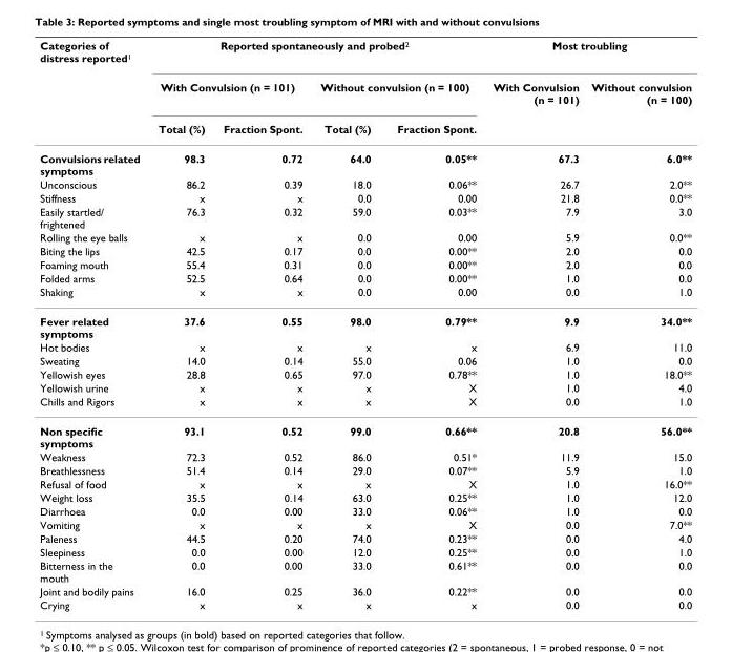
<table><thead><tr><td rowspan="3">Categories of distress reported<sup>1</sup></td><td colspan="4">Reported spontaneously and probed<sup>2</sup></td><td colspan="2">Most troubling</td></tr><tr><td colspan="2">With Convulsion (n = 101)</td><td colspan="2">Without convulsion (n = 100)</td><td rowspan="2">With Convulsion (n = 101)</td><td rowspan="2">Without convulsion (n = 100)</td></tr><tr><td>Total (%)</td><td>Fraction Spont.</td><td>Total (%)</td><td>Fraction Spont.</td></tr></thead><tbody><tr><td>Convulsions related symptoms</td><td>98.3</td><td>0.72</td><td>64.0</td><td>0.05**</td><td>67.3</td><td>6.0**</td></tr><tr><td>Unconscious</td><td>86.2</td><td>0.39</td><td>18.0</td><td>0.06**</td><td>26.7</td><td>2.0**</td></tr><tr><td>Stiffness</td><td>x</td><td>x</td><td>0.0</td><td>0.00</td><td>21.8</td><td>0.0**</td></tr><tr><td>Easily startled/ frightened</td><td>76.3</td><td>0.32</td><td>59.0</td><td>0.03**</td><td>7.9</td><td>3.0</td></tr><tr><td>Rolling the eye balls</td><td>x</td><td>x</td><td>0.0</td><td>0.00</td><td>5.9</td><td>0.0**</td></tr><tr><td>Biting the lips</td><td>42.5</td><td>0.17</td><td>0.0</td><td>0.00**</td><td>2.0</td><td>0.0</td></tr><tr><td>Foaming mouth</td><td>55.4</td><td>0.31</td><td>0.0</td><td>0.00**</td><td>2.0</td><td>0.0</td></tr><tr><td>Folded arms</td><td>52.5</td><td>0.64</td><td>0.0</td><td>0.00**</td><td>1.0</td><td>0.0</td></tr><tr><td>Shaking</td><td>x</td><td>x</td><td>0.0</td><td>0.00</td><td>0.0</td><td>1.0</td></tr><tr><td>Fever related symptoms</td><td>37.6</td><td>0.55</td><td>98.0</td><td>0.79**</td><td>9.9</td><td>34.0**</td></tr><tr><td>Hot bodies</td><td>x</td><td>x</td><td>x</td><td>x</td><td>6.9</td><td>11.0</td></tr><tr><td>Sweating</td><td>14.0</td><td>0.14</td><td>55.0</td><td>0.06</td><td>1.0</td><td>0.0</td></tr><tr><td>Yellowish eyes</td><td>28.8</td><td>0.65</td><td>97.0</td><td>0.78**</td><td>1.0</td><td>18.0**</td></tr><tr><td>Yellowish urine</td><td>x</td><td>x</td><td>x</td><td>X</td><td>1.0</td><td>4.0</td></tr><tr><td>Chills and Rigors</td><td>x</td><td>x</td><td>x</td><td>X</td><td>0.0</td><td>1.0</td></tr><tr><td>Non specific symptoms</td><td>93.1</td><td>0.52</td><td>99.0</td><td>0.66**</td><td>20.8</td><td>56.0**</td></tr><tr><td>Weakness</td><td>72.3</td><td>0.52</td><td>86.0</td><td>0.51*</td><td>11.9</td><td>15.0</td></tr><tr><td>Breathlessness</td><td>51.4</td><td>0.14</td><td>29.0</td><td>0.07**</td><td>5.9</td><td>1.0</td></tr><tr><td>Refusal of food</td><td>x</td><td>x</td><td>x</td><td>X</td><td>1.0</td><td>16.0**</td></tr><tr><td>Weight loss</td><td>35.5</td><td>0.14</td><td>63.0</td><td>0.25**</td><td>1.0</td><td>12.0</td></tr><tr><td>Diarrhoea</td><td>0.0</td><td>0.00</td><td>33.0</td><td>0.06**</td><td>1.0</td><td>0.0</td></tr><tr><td>Vomiting</td><td>x</td><td>x</td><td>x</td><td>X</td><td>0.0</td><td>7.0**</td></tr><tr><td>Paleness</td><td>44.5</td><td>0.20</td><td>74.0</td><td>0.23**</td><td>0.0</td><td>4.0</td></tr><tr><td>Sleepiness</td><td>0.0</td><td>0.00</td><td>12.0</td><td>0.25**</td><td>0.0</td><td>1.0</td></tr><tr><td>Bitterness in the mouth</td><td>0.0</td><td>0.00</td><td>33.0</td><td>0.61**</td><td>0.0</td><td>0.0</td></tr><tr><td>Joint and bodily pains</td><td>16.0</td><td>0.25</td><td>36.0</td><td>0.22**</td><td>0.0</td><td>0.0</td></tr><tr><td>Crying</td><td>x</td><td>x</td><td>x</td><td>x</td><td>0.0</td><td>0.0</td></tr></tbody></table>